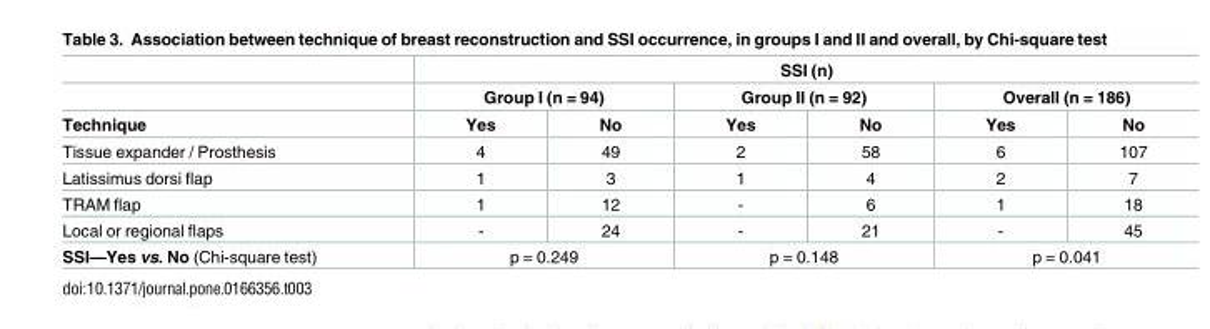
<table><thead><tr><td rowspan="3">Technique</td><td colspan="6">SSI (n)</td></tr><tr><td colspan="2">Group I (n = 94)</td><td colspan="2">Group II (n = 92)</td><td colspan="2">Overall (n = 186)</td></tr><tr><td>Yes</td><td>No</td><td>Yes</td><td>No</td><td>Yes</td><td>No</td></tr></thead><tbody><tr><td>Tissue expander / Prosthesis</td><td>4</td><td>49</td><td>2</td><td>58</td><td>6</td><td>107</td></tr><tr><td>Latissimus dorsi flap</td><td>1</td><td>3</td><td>1</td><td>4</td><td>2</td><td>7</td></tr><tr><td>TRAM flap</td><td>1</td><td>12</td><td>-</td><td>6</td><td>1</td><td>18</td></tr><tr><td>Local or regional flaps</td><td>-</td><td>24</td><td>-</td><td>21</td><td>-</td><td>45</td></tr><tr><td>SSI—Yes vs. No (Chi-square test)</td><td colspan="2">p = 0.249</td><td colspan="2">p = 0.148</td><td colspan="2">p = 0.041</td></tr></tbody></table>